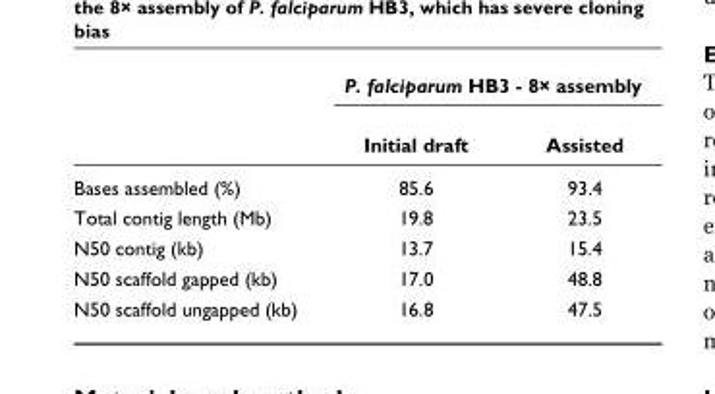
<table><thead><tr><td rowspan="2"></td><td colspan="2">P. falciparum HB3 - 8× assembly</td></tr><tr><td>Initial draft</td><td>Assisted</td></tr></thead><tbody><tr><td>Bases assembled (%)</td><td>85.6</td><td>93.4</td></tr><tr><td>Total contig length (Mb)</td><td>19.8</td><td>23.5</td></tr><tr><td>N50 contig (kb)</td><td>13.7</td><td>15.4</td></tr><tr><td>N50 scaffold gapped (kb)</td><td>17.0</td><td>48.8</td></tr><tr><td>N50 scaffold ungapped (kb)</td><td>16.8</td><td>47.5</td></tr></tbody></table>